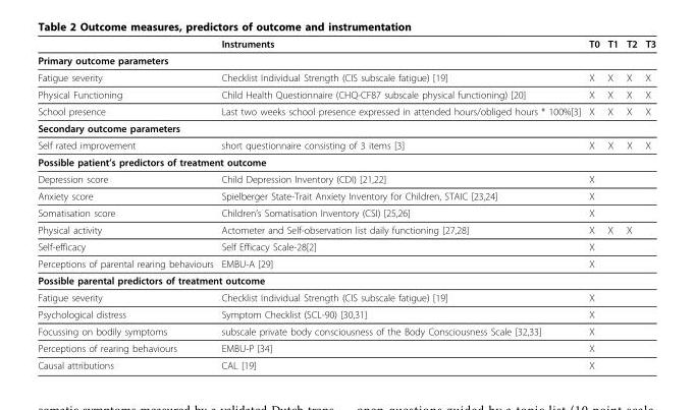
<table><thead><tr><td></td><td>Instruments</td><td>T0</td><td>T1</td><td>T2</td><td>T3</td></tr></thead><tbody><tr><td colspan="6">Primary outcome parameters</td></tr><tr><td>Fatigue severity</td><td>Checklist Individual Strength (CIS subscale fatigue) [19]</td><td>X</td><td>X</td><td>X</td><td>X</td></tr><tr><td>Physical Functioning</td><td>Child Health Questionnaire (CHQ-CF87 subscale physical functioning) [20]</td><td>X</td><td>X</td><td>X</td><td>X</td></tr><tr><td>School presence</td><td>Last two weeks school presence expressed in attended hours/obliged hours * 100%[3]</td><td>X</td><td>X</td><td>X</td><td>X</td></tr><tr><td colspan="6">Secondary outcome parameters</td></tr><tr><td>Self rated improvement</td><td>short questionnaire consisting of 3 items [3]</td><td>X</td><td>X</td><td>X</td><td>X</td></tr><tr><td colspan="6">Possible patient’s predictors of treatment outcome</td></tr><tr><td>Depression score</td><td>Child Depression Inventory (CDI) [21,22]</td><td>X</td><td></td><td></td><td></td></tr><tr><td>Anxiety score</td><td>Spielberger State-Trait Anxiety Inventory for Children, STAIC [23,24]</td><td>X</td><td></td><td></td><td></td></tr><tr><td>Somatisation score</td><td>Children’s Somatisation Inventory (CSI) [25,26]</td><td>X</td><td></td><td></td><td></td></tr><tr><td>Physical activity</td><td>Actometer and Self-observation list daily functioning [27,28]</td><td>X</td><td>X</td><td>X</td><td></td></tr><tr><td>Self-efficacy</td><td>Self Efficacy Scale-28[2]</td><td>X</td><td></td><td></td><td></td></tr><tr><td>Perceptions of parental rearing behaviours</td><td>EMBU-A [29]</td><td>X</td><td></td><td></td><td></td></tr><tr><td colspan="6">Possible parental predictors of treatment outcome</td></tr><tr><td>Fatigue severity</td><td>Checklist Individual Strength (CIS subscale fatigue) [19]</td><td>X</td><td></td><td></td><td></td></tr><tr><td>Psychological distress</td><td>Symptom Checklist (SCL-90) [30,31]</td><td>X</td><td></td><td></td><td></td></tr><tr><td>Focussing on bodily symptoms</td><td>subscale private body consciousness of the Body Consciousness Scale [32,33]</td><td>X</td><td></td><td></td><td></td></tr><tr><td>Perceptions of rearing behaviours</td><td>EMBU-P [34]</td><td>X</td><td></td><td></td><td></td></tr><tr><td>Causal attributions</td><td>CAL [19]</td><td>X</td><td></td><td></td><td></td></tr></tbody></table>